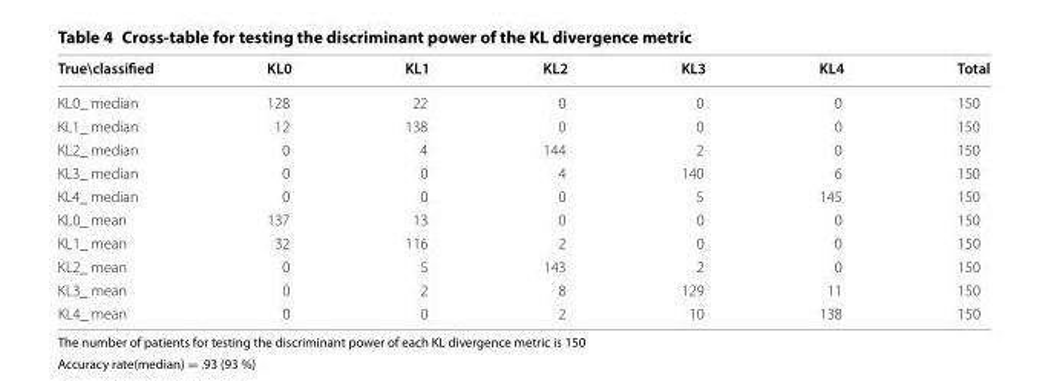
<table><thead><tr><td>True\classified</td><td>KL0</td><td>KL1</td><td>KL2</td><td>KL3</td><td>KL4</td><td>Total</td></tr></thead><tbody><tr><td>KL0_ median</td><td>128</td><td>22</td><td>0</td><td>0</td><td>0</td><td>150</td></tr><tr><td>KL1_ median</td><td>12</td><td>138</td><td>0</td><td>0</td><td>0</td><td>150</td></tr><tr><td>KL2_ median</td><td>0</td><td>4</td><td>144</td><td>2</td><td>0</td><td>150</td></tr><tr><td>KL3_ median</td><td>0</td><td>0</td><td>4</td><td>140</td><td>6</td><td>150</td></tr><tr><td>KL4_ median</td><td>0</td><td>0</td><td>0</td><td>5</td><td>145</td><td>150</td></tr><tr><td>KL0_ mean</td><td>137</td><td>13</td><td>0</td><td>0</td><td>0</td><td>150</td></tr><tr><td>KL1_ mean</td><td>32</td><td>116</td><td>2</td><td>0</td><td>0</td><td>150</td></tr><tr><td>KL2_ mean</td><td>0</td><td>5</td><td>143</td><td>2</td><td>0</td><td>150</td></tr><tr><td>KL3_ mean</td><td>0</td><td>2</td><td>8</td><td>129</td><td>11</td><td>150</td></tr><tr><td>KL4_ mean</td><td>0</td><td>0</td><td>2</td><td>10</td><td>138</td><td>150</td></tr></tbody></table>